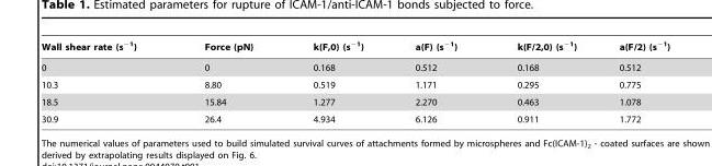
<table><thead><tr><td>Wall shear rate (s<sup>−1</sup>)</td><td>Force (pN)</td><td>k(F,0) (s<sup>−1</sup>)</td><td>a(F) (s<sup>−1</sup>)</td><td>k(F/2,0) (s<sup>−1</sup>)</td><td>a(F/2) (s<sup>−1</sup>)</td></tr></thead><tbody><tr><td>0</td><td>0</td><td>0.168</td><td>0.512</td><td>0.168</td><td>0.512</td></tr><tr><td>10.3</td><td>8.80</td><td>0.519</td><td>1.171</td><td>0.295</td><td>0.775</td></tr><tr><td>18.5</td><td>15.84</td><td>1.277</td><td>2.270</td><td>0.463</td><td>1.078</td></tr><tr><td>30.9</td><td>26.4</td><td>4.934</td><td>6.126</td><td>0.911</td><td>1.772</td></tr></tbody></table>